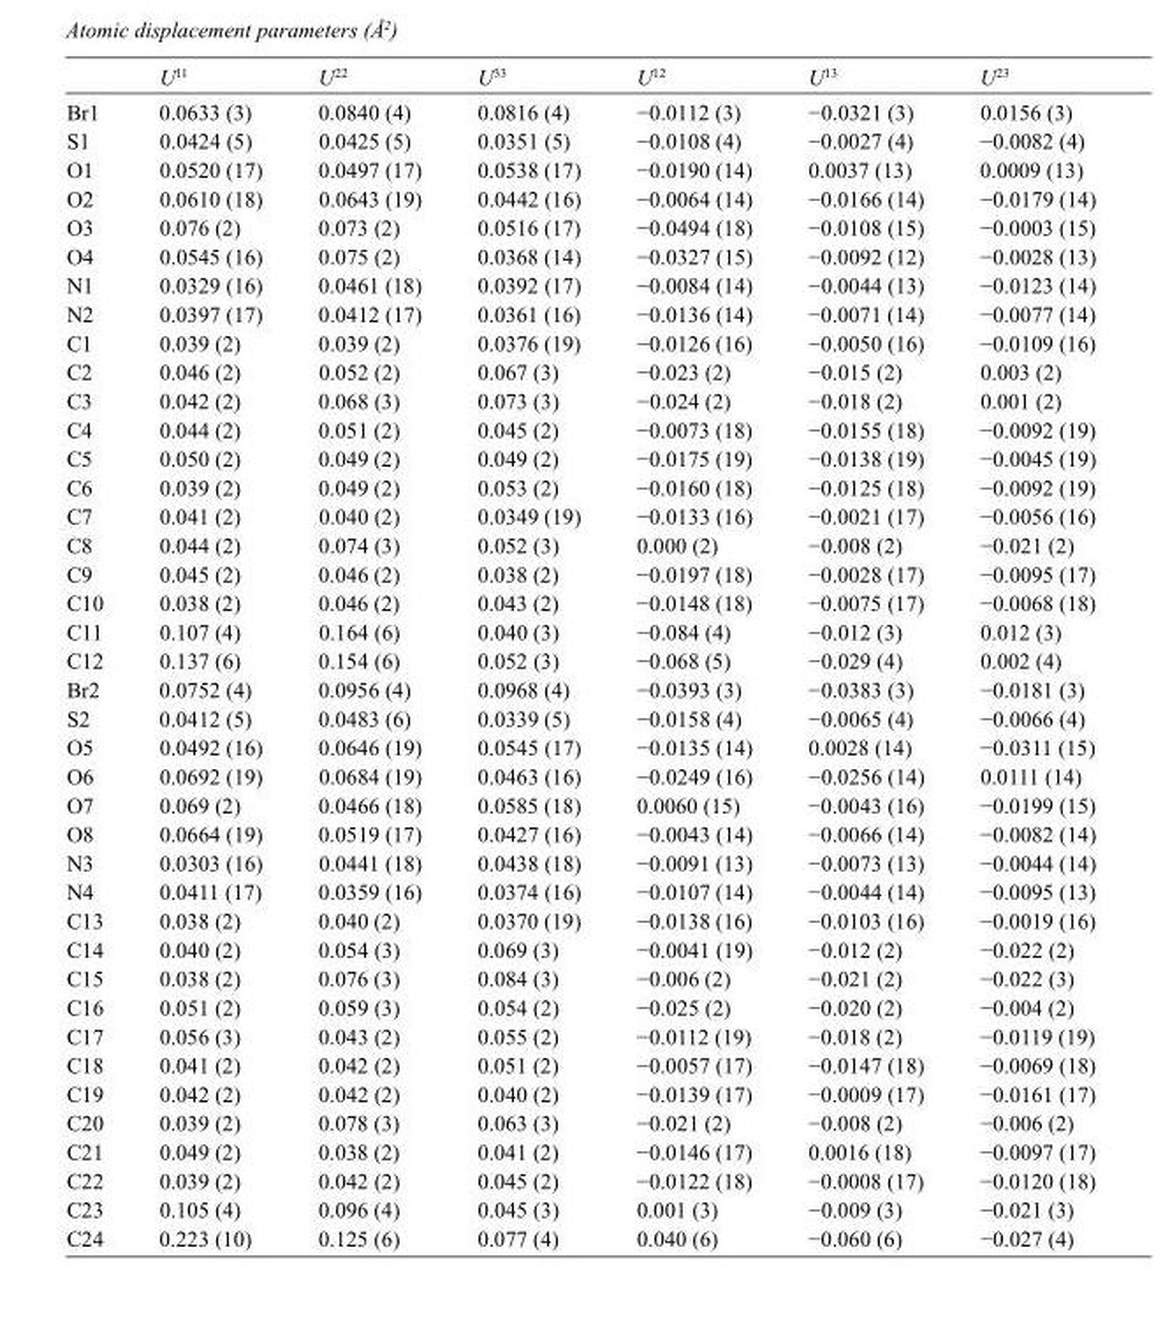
<table><thead><tr><td></td><td>U<sup>11</sup></td><td>U<sup>22</sup></td><td>U<sup>33</sup></td><td>U<sup>12</sup></td><td>U<sup>13</sup></td><td>U<sup>23</sup></td></tr></thead><tbody><tr><td>Br1</td><td>0.0633 (3)</td><td>0.0840 (4)</td><td>0.0816 (4)</td><td>−0.0112 (3)</td><td>−0.0321 (3)</td><td>0.0156 (3)</td></tr><tr><td>S1</td><td>0.0424 (5)</td><td>0.0425 (5)</td><td>0.0351 (5)</td><td>−0.0108 (4)</td><td>−0.0027 (4)</td><td>−0.0082 (4)</td></tr><tr><td>O1</td><td>0.0520 (17)</td><td>0.0497 (17)</td><td>0.0538 (17)</td><td>−0.0190 (14)</td><td>0.0037 (13)</td><td>0.0009 (13)</td></tr><tr><td>O2</td><td>0.0610 (18)</td><td>0.0643 (19)</td><td>0.0442 (16)</td><td>−0.0064 (14)</td><td>−0.0166 (14)</td><td>−0.0179 (14)</td></tr><tr><td>O3</td><td>0.076 (2)</td><td>0.073 (2)</td><td>0.0516 (17)</td><td>−0.0494 (18)</td><td>−0.0108 (15)</td><td>−0.0003 (15)</td></tr><tr><td>O4</td><td>0.0545 (16)</td><td>0.075 (2)</td><td>0.0368 (14)</td><td>−0.0327 (15)</td><td>−0.0092 (12)</td><td>−0.0028 (13)</td></tr><tr><td>N1</td><td>0.0329 (16)</td><td>0.0461 (18)</td><td>0.0392 (17)</td><td>−0.0084 (14)</td><td>−0.0044 (13)</td><td>−0.0123 (14)</td></tr><tr><td>N2</td><td>0.0397 (17)</td><td>0.0412 (17)</td><td>0.0361 (16)</td><td>−0.0136 (14)</td><td>−0.0071 (14)</td><td>−0.0077 (14)</td></tr><tr><td>C1</td><td>0.039 (2)</td><td>0.039 (2)</td><td>0.0376 (19)</td><td>−0.0126 (16)</td><td>−0.0050 (16)</td><td>−0.0109 (16)</td></tr><tr><td>C2</td><td>0.046 (2)</td><td>0.052 (2)</td><td>0.067 (3)</td><td>−0.023 (2)</td><td>−0.015 (2)</td><td>0.003 (2)</td></tr><tr><td>C3</td><td>0.042 (2)</td><td>0.068 (3)</td><td>0.073 (3)</td><td>−0.024 (2)</td><td>−0.018 (2)</td><td>0.001 (2)</td></tr><tr><td>C4</td><td>0.044 (2)</td><td>0.051 (2)</td><td>0.045 (2)</td><td>−0.0073 (18)</td><td>−0.0155 (18)</td><td>−0.0092 (19)</td></tr><tr><td>C5</td><td>0.050 (2)</td><td>0.049 (2)</td><td>0.049 (2)</td><td>−0.0175 (19)</td><td>−0.0138 (19)</td><td>−0.0045 (19)</td></tr><tr><td>C6</td><td>0.039 (2)</td><td>0.049 (2)</td><td>0.053 (2)</td><td>−0.0160 (18)</td><td>−0.0125 (18)</td><td>−0.0092 (19)</td></tr><tr><td>C7</td><td>0.041 (2)</td><td>0.040 (2)</td><td>0.0349 (19)</td><td>−0.0133 (16)</td><td>−0.0021 (17)</td><td>−0.0056 (16)</td></tr><tr><td>C8</td><td>0.044 (2)</td><td>0.074 (3)</td><td>0.052 (3)</td><td>0.000 (2)</td><td>−0.008 (2)</td><td>−0.021 (2)</td></tr><tr><td>C9</td><td>0.045 (2)</td><td>0.046 (2)</td><td>0.038 (2)</td><td>−0.0197 (18)</td><td>−0.0028 (17)</td><td>−0.0095 (17)</td></tr><tr><td>C10</td><td>0.038 (2)</td><td>0.046 (2)</td><td>0.043 (2)</td><td>−0.0148 (18)</td><td>−0.0075 (17)</td><td>−0.0068 (18)</td></tr><tr><td>C11</td><td>0.107 (4)</td><td>0.164 (6)</td><td>0.040 (3)</td><td>−0.084 (4)</td><td>−0.012 (3)</td><td>0.012 (3)</td></tr><tr><td>C12</td><td>0.137 (6)</td><td>0.154 (6)</td><td>0.052 (3)</td><td>−0.068 (5)</td><td>−0.029 (4)</td><td>0.002 (4)</td></tr><tr><td>Br2</td><td>0.0752 (4)</td><td>0.0956 (4)</td><td>0.0968 (4)</td><td>−0.0393 (3)</td><td>−0.0383 (3)</td><td>−0.0181 (3)</td></tr><tr><td>S2</td><td>0.0412 (5)</td><td>0.0483 (6)</td><td>0.0339 (5)</td><td>−0.0158 (4)</td><td>−0.0065 (4)</td><td>−0.0066 (4)</td></tr><tr><td>O5</td><td>0.0492 (16)</td><td>0.0646 (19)</td><td>0.0545 (17)</td><td>−0.0135 (14)</td><td>0.0028 (14)</td><td>−0.0311 (15)</td></tr><tr><td>O6</td><td>0.0692 (19)</td><td>0.0684 (19)</td><td>0.0463 (16)</td><td>−0.0249 (16)</td><td>−0.0256 (14)</td><td>0.0111 (14)</td></tr><tr><td>O7</td><td>0.069 (2)</td><td>0.0466 (18)</td><td>0.0585 (18)</td><td>0.0060 (15)</td><td>−0.0043 (16)</td><td>−0.0199 (15)</td></tr><tr><td>O8</td><td>0.0664 (19)</td><td>0.0519 (17)</td><td>0.0427 (16)</td><td>−0.0043 (14)</td><td>−0.0066 (14)</td><td>−0.0082 (14)</td></tr><tr><td>N3</td><td>0.0303 (16)</td><td>0.0441 (18)</td><td>0.0438 (18)</td><td>−0.0091 (13)</td><td>−0.0073 (13)</td><td>−0.0044 (14)</td></tr><tr><td>N4</td><td>0.0411 (17)</td><td>0.0359 (16)</td><td>0.0374 (16)</td><td>−0.0107 (14)</td><td>−0.0044 (14)</td><td>−0.0095 (13)</td></tr><tr><td>C13</td><td>0.038 (2)</td><td>0.040 (2)</td><td>0.0370 (19)</td><td>−0.0138 (16)</td><td>−0.0103 (16)</td><td>−0.0019 (16)</td></tr><tr><td>C14</td><td>0.040 (2)</td><td>0.054 (3)</td><td>0.069 (3)</td><td>−0.0041 (19)</td><td>−0.012 (2)</td><td>−0.022 (2)</td></tr><tr><td>C15</td><td>0.038 (2)</td><td>0.076 (3)</td><td>0.084 (3)</td><td>−0.006 (2)</td><td>−0.021 (2)</td><td>−0.022 (3)</td></tr><tr><td>C16</td><td>0.051 (2)</td><td>0.059 (3)</td><td>0.054 (2)</td><td>−0.025 (2)</td><td>−0.020 (2)</td><td>−0.004 (2)</td></tr><tr><td>C17</td><td>0.056 (3)</td><td>0.043 (2)</td><td>0.055 (2)</td><td>−0.0112 (19)</td><td>−0.018 (2)</td><td>−0.0119 (19)</td></tr><tr><td>C18</td><td>0.041 (2)</td><td>0.042 (2)</td><td>0.051 (2)</td><td>−0.0057 (17)</td><td>−0.0147 (18)</td><td>−0.0069 (18)</td></tr><tr><td>C19</td><td>0.042 (2)</td><td>0.042 (2)</td><td>0.040 (2)</td><td>−0.0139 (17)</td><td>−0.0009 (17)</td><td>−0.0161 (17)</td></tr><tr><td>C20</td><td>0.039 (2)</td><td>0.078 (3)</td><td>0.063 (3)</td><td>−0.021 (2)</td><td>−0.008 (2)</td><td>−0.006 (2)</td></tr><tr><td>C21</td><td>0.049 (2)</td><td>0.038 (2)</td><td>0.041 (2)</td><td>−0.0146 (17)</td><td>0.0016 (18)</td><td>−0.0097 (17)</td></tr><tr><td>C22</td><td>0.039 (2)</td><td>0.042 (2)</td><td>0.045 (2)</td><td>−0.0122 (18)</td><td>−0.0008 (17)</td><td>−0.0120 (18)</td></tr><tr><td>C23</td><td>0.105 (4)</td><td>0.096 (4)</td><td>0.045 (3)</td><td>0.001 (3)</td><td>−0.009 (3)</td><td>−0.021 (3)</td></tr><tr><td>C24</td><td>0.223 (10)</td><td>0.125 (6)</td><td>0.077 (4)</td><td>0.040 (6)</td><td>−0.060 (6)</td><td>−0.027 (4)</td></tr></tbody></table>